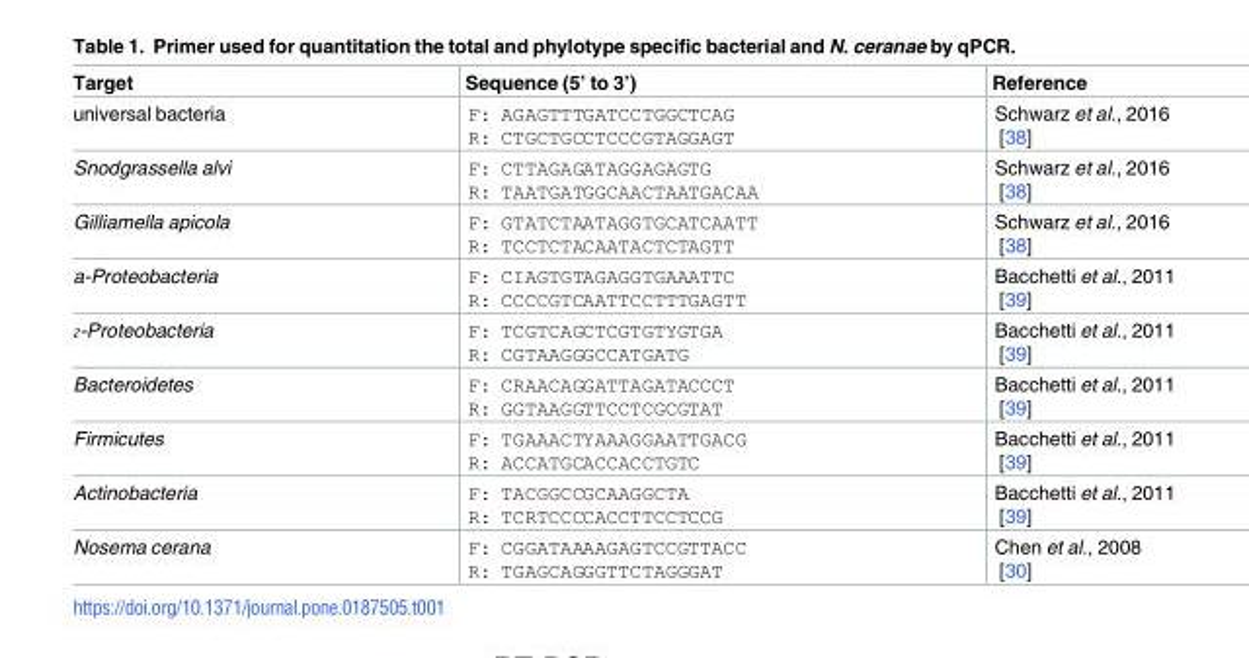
<table><thead><tr><td>Target</td><td>Sequence (5’ to 3’)</td><td>Reference</td></tr></thead><tbody><tr><td>universal bacteria</td><td>F: AGAGTTTGATCCTGGCTCAG R: CTGCTGCCTCCCGTAGGAGT</td><td>Schwarz et al., 2016 [38]</td></tr><tr><td>Snodgrassella alvi</td><td>F: CTTAGAGATAGGAGAGTG R: TAATGATGGCAACTAATGACAA</td><td>Schwarz et al., 2016 [38]</td></tr><tr><td>Gilliamella apicola</td><td>F: GTATCTAATAGGTGCATCAATT R: TCCTCTACAATACTCTAGTT</td><td>Schwarz et al., 2016 [38]</td></tr><tr><td>a-Proteobacteria</td><td>F: CIAGTGTAGAGGTGAAATTC R: CCCCGTCAATTCCTTTGAGTT</td><td>Bacchetti et al., 2011 [39]</td></tr><tr><td>г-Proteobacteria</td><td>F: TCGTCAGCTCGTGTYGTGA R: CGTAAGGGCCATGATG</td><td>Bacchetti et al., 2011 [39]</td></tr><tr><td>Bacteroidetes</td><td>F: CRAACAGGATTAGATACCCT R: GGTAAGGTTCCTCGCGTAT</td><td>Bacchetti et al., 2011 [39]</td></tr><tr><td>Firmicutes</td><td>F: TGAAACTYAAAGGAATTGACG R: ACCATGCACCACCTGTC</td><td>Bacchetti et al., 2011 [39]</td></tr><tr><td>Actinobacteria</td><td>F: TACGGCCGCAAGGCTA R: TCRTCCCCACCTTCCTCCG</td><td>Bacchetti et al., 2011 [39]</td></tr><tr><td>Nosema cerana</td><td>F: CGGATAAAAGAGTCCGTTACC R: TGAGCAGGGTTCTAGGGAT</td><td>Chen et al., 2008 [30]</td></tr></tbody></table>